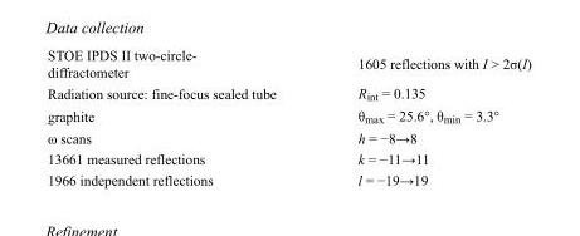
<table><tbody><tr><td>STOE IPDS II two-circle- diffractometer</td><td>1605 reflections with I &gt; 2σ(I)</td></tr><tr><td>Radiation source: fine-focus sealed tube</td><td>R<sub>int</sub> = 0.135</td></tr><tr><td>graphite</td><td>θ<sub>max</sub> = 25.6°, θ<sub>min</sub> = 3.3°</td></tr><tr><td>ω scans</td><td>h = −8→8</td></tr><tr><td>13661 measured reflections</td><td>k = −11→11</td></tr><tr><td>1966 independent reflections</td><td>l = −19→19</td></tr></tbody></table>